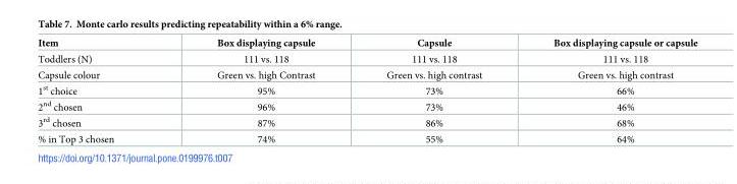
<table><thead><tr><td>Item</td><td>Box displaying capsule</td><td>Capsule</td><td>Box displaying capsule or capsule</td></tr></thead><tbody><tr><td>Toddlers (N)</td><td>111 vs. 118</td><td>111 vs. 118</td><td>111 vs. 118</td></tr><tr><td>Capsule colour</td><td>Green vs. high Contrast</td><td>Green vs. high contrast</td><td>Green vs. high contrast</td></tr><tr><td>1<sup>st</sup> choice</td><td>95%</td><td>73%</td><td>66%</td></tr><tr><td>2<sup>nd</sup> chosen</td><td>96%</td><td>73%</td><td>46%</td></tr><tr><td>3<sup>rd</sup> chosen</td><td>87%</td><td>86%</td><td>68%</td></tr><tr><td>% in Top 3 chosen</td><td>74%</td><td>55%</td><td>64%</td></tr></tbody></table>